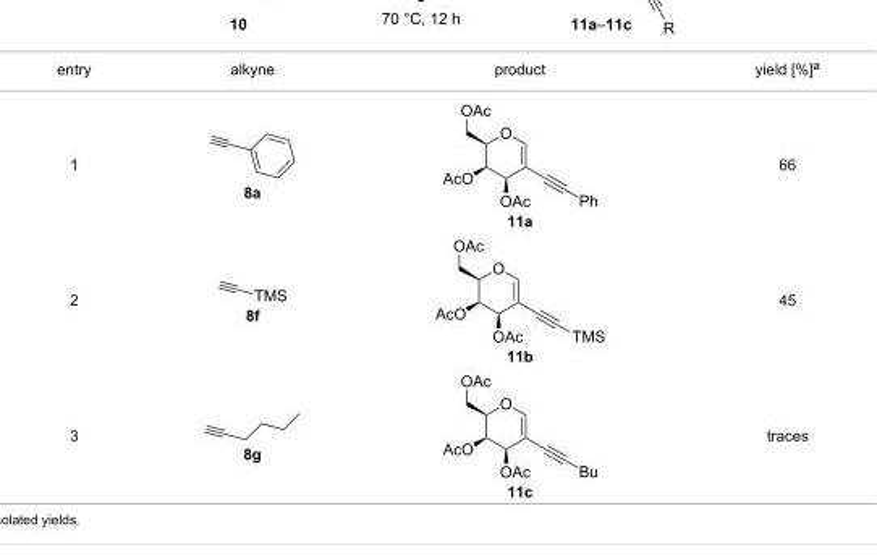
<table><tbody><tr><td>entry</td><td>alkyne</td><td>product</td><td>yield [%]<sup>a</sup></td></tr><tr><td>1</td><td>8a</td><td>11a</td><td>66</td></tr><tr><td>2</td><td>8f</td><td>11b</td><td>45</td></tr><tr><td>3</td><td>8g</td><td>11c</td><td>traces</td></tr></tbody></table>